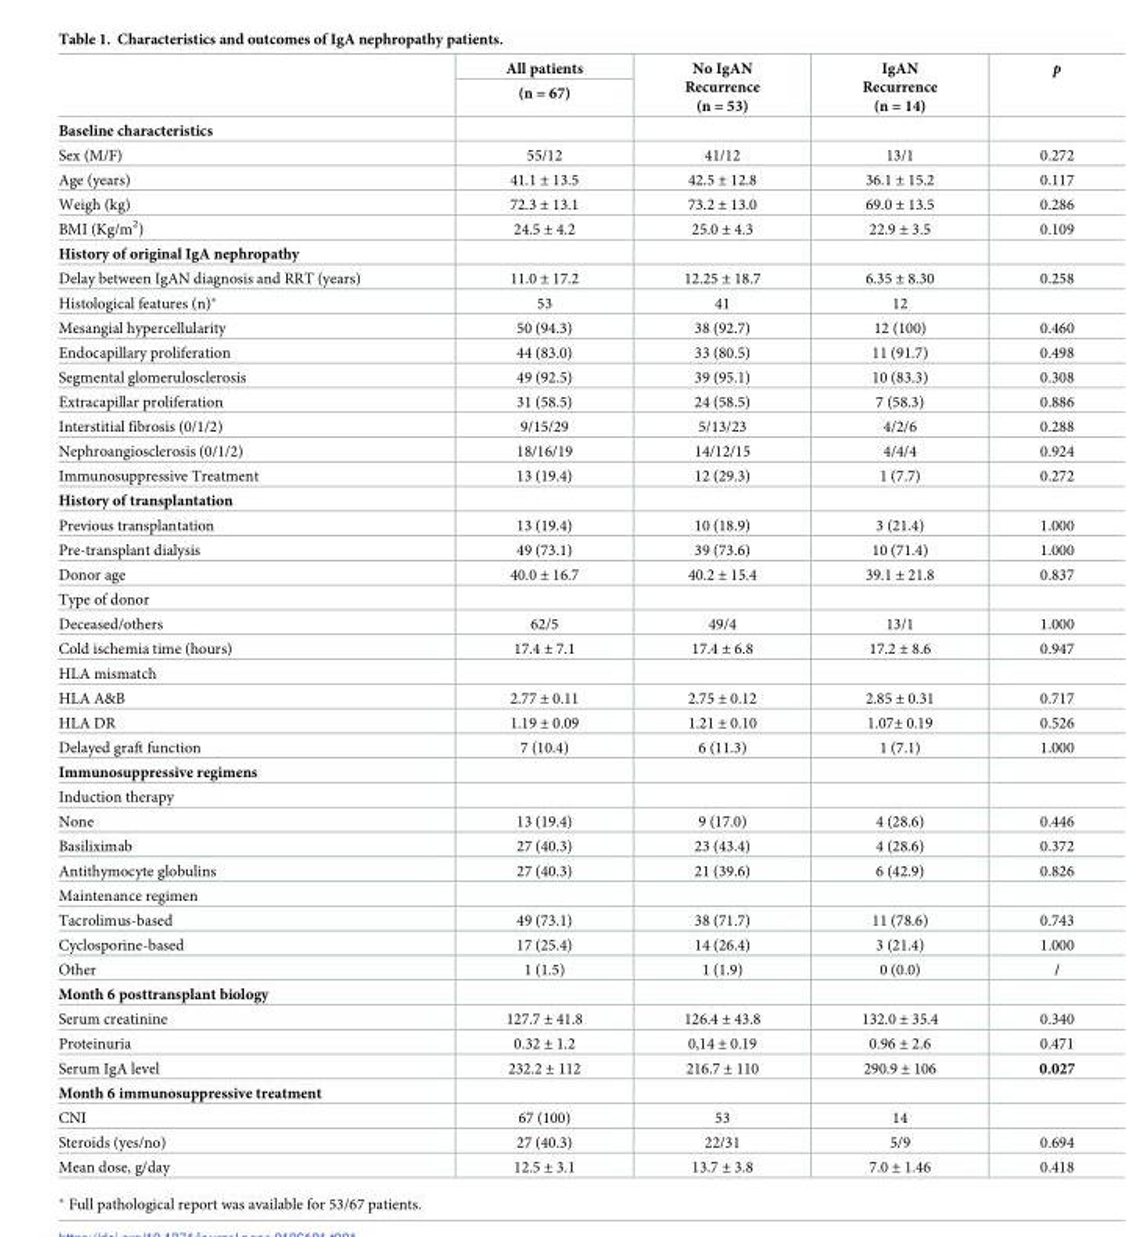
<table><thead><tr><td rowspan="2"></td><td rowspan="2">All patients (n = 67)</td><td rowspan="2">No IgAN Recurrence (n = 53)</td><td rowspan="2">IgAN Recurrence (n = 14)</td><td rowspan="2">p</td></tr><tr></tr></thead><tbody><tr><td colspan="5">Baseline characteristics</td></tr><tr><td>Sex (M/F)</td><td>55/12</td><td>41/12</td><td>13/1</td><td>0.272</td></tr><tr><td>Age (years)</td><td>41.1 ± 13.5</td><td>42.5 ± 12.8</td><td>36.1 ± 15.2</td><td>0.117</td></tr><tr><td>Weigh (kg)</td><td>72.3 ± 13.1</td><td>73.2 ± 13.0</td><td>69.0 ± 13.5</td><td>0.286</td></tr><tr><td>BMI (Kg/m<sup>2</sup>)</td><td>24.5 ± 4.2</td><td>25.0 ± 4.3</td><td>22.9 ± 3.5</td><td>0.109</td></tr><tr><td colspan="5">History of original IgA nephropathy</td></tr><tr><td>Delay between IgAN diagnosis and RRT (years)</td><td>11.0 ± 17.2</td><td>12.25 ± 18.7</td><td>6.35 ± 8.30</td><td>0.258</td></tr><tr><td>Histological features (n)*</td><td>53</td><td>41</td><td>12</td><td></td></tr><tr><td>Mesangial hypercellularity</td><td>50 (94.3)</td><td>38 (92.7)</td><td>12 (100)</td><td>0.460</td></tr><tr><td>Endocapillary proliferation</td><td>44 (83.0)</td><td>33 (80.5)</td><td>11 (91.7)</td><td>0.498</td></tr><tr><td>Segmental glomerulosclerosis</td><td>49 (92.5)</td><td>39 (95.1)</td><td>10 (83.3)</td><td>0.308</td></tr><tr><td>Extracapillar proliferation</td><td>31 (58.5)</td><td>24 (58.5)</td><td>7 (58.3)</td><td>0.886</td></tr><tr><td>Interstitial fibrosis (0/1/2)</td><td>9/15/29</td><td>5/13/23</td><td>4/2/6</td><td>0.288</td></tr><tr><td>Nephroangiosclerosis (0/1/2)</td><td>18/16/19</td><td>14/12/15</td><td>4/4/4</td><td>0.924</td></tr><tr><td>Immunosuppressive Treatment</td><td>13 (19.4)</td><td>12 (29.3)</td><td>1 (7.7)</td><td>0.272</td></tr><tr><td colspan="5">History of transplantation</td></tr><tr><td>Previous transplantation</td><td>13 (19.4)</td><td>10 (18.9)</td><td>3 (21.4)</td><td>1.000</td></tr><tr><td>Pre-transplant dialysis</td><td>49 (73.1)</td><td>39 (73.6)</td><td>10 (71.4)</td><td>1.000</td></tr><tr><td>Donor age</td><td>40.0 ± 16.7</td><td>40.2 ± 15.4</td><td>39.1 ± 21.8</td><td>0.837</td></tr><tr><td colspan="5">Type of donor</td></tr><tr><td>Deceased/others</td><td>62/5</td><td>49/4</td><td>13/1</td><td>1.000</td></tr><tr><td>Cold ischemia time (hours)</td><td>17.4 ± 7.1</td><td>17.4 ± 6.8</td><td>17.2 ± 8.6</td><td>0.947</td></tr><tr><td colspan="5">HLA mismatch</td></tr><tr><td>HLA A&amp;B</td><td>2.77 ± 0.11</td><td>2.75 ± 0.12</td><td>2.85 ± 0.31</td><td>0.717</td></tr><tr><td>HLA DR</td><td>1.19 ± 0.09</td><td>1.21 ± 0.10</td><td>1.07± 0.19</td><td>0.526</td></tr><tr><td>Delayed graft function</td><td>7 (10.4)</td><td>6 (11.3)</td><td>1 (7.1)</td><td>1.000</td></tr><tr><td colspan="5">Immunosuppressive regimens</td></tr><tr><td colspan="5">Induction therapy</td></tr><tr><td>None</td><td>13 (19.4)</td><td>9 (17.0)</td><td>4 (28.6)</td><td>0.446</td></tr><tr><td>Basiliximab</td><td>27 (40.3)</td><td>23 (43.4)</td><td>4 (28.6)</td><td>0.372</td></tr><tr><td>Antithymocyte globulins</td><td>27 (40.3)</td><td>21 (39.6)</td><td>6 (42.9)</td><td>0.826</td></tr><tr><td colspan="5">Maintenance regimen</td></tr><tr><td>Tacrolimus-based</td><td>49 (73.1)</td><td>38 (71.7)</td><td>11 (78.6)</td><td>0.743</td></tr><tr><td>Cyclosporine-based</td><td>17 (25.4)</td><td>14 (26.4)</td><td>3 (21.4)</td><td>1.000</td></tr><tr><td>Other</td><td>1 (1.5)</td><td>1 (1.9)</td><td>0 (0.0)</td><td>/</td></tr><tr><td colspan="5">Month 6 posttransplant biology</td></tr><tr><td>Serum creatinine</td><td>127.7 ± 41.8</td><td>126.4 ± 43.8</td><td>132.0 ± 35.4</td><td>0.340</td></tr><tr><td>Proteinuria</td><td>0.32 ± 1.2</td><td>0,14 ± 0.19</td><td>0.96 ± 2.6</td><td>0.471</td></tr><tr><td>Serum IgA level</td><td>232.2 ± 112</td><td>216.7 ± 110</td><td>290.9 ± 106</td><td>0.027</td></tr><tr><td colspan="5">Month 6 immunosuppressive treatment</td></tr><tr><td>CNI</td><td>67 (100)</td><td>53</td><td>14</td><td></td></tr><tr><td>Steroids (yes/no)</td><td>27 (40.3)</td><td>22/31</td><td>5/9</td><td>0.694</td></tr><tr><td>Mean dose, g/day</td><td>12.5 ± 3.1</td><td>13.7 ± 3.8</td><td>7.0 ± 1.46</td><td>0.418</td></tr></tbody></table>